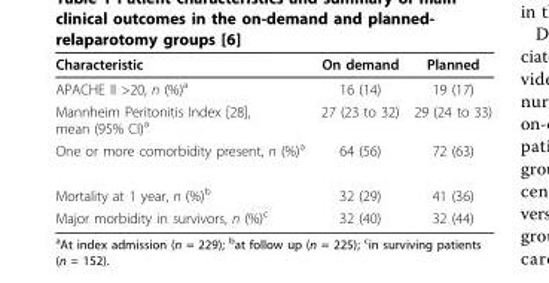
<table><thead><tr><td>Characteristic</td><td>On demand</td><td>Planned</td></tr></thead><tbody><tr><td>APACHE II &gt;20, n (%)<sup>a</sup></td><td>16 (14)</td><td>19 (17)</td></tr><tr><td>Mannheim Peritonitis Index [28], mean (95% CI)<sup>a</sup></td><td>27 (23 to 32)</td><td>29 (24 to 33)</td></tr><tr><td>One or more comorbidity present, n (%)<sup>a</sup></td><td>64 (56)</td><td>72 (63)</td></tr><tr><td>Mortality at 1 year, n (%)<sup>b</sup></td><td>32 (29)</td><td>41 (36)</td></tr><tr><td>Major morbidity in survivors, n (%)<sup>c</sup></td><td>32 (40)</td><td>32 (44)</td></tr></tbody></table>